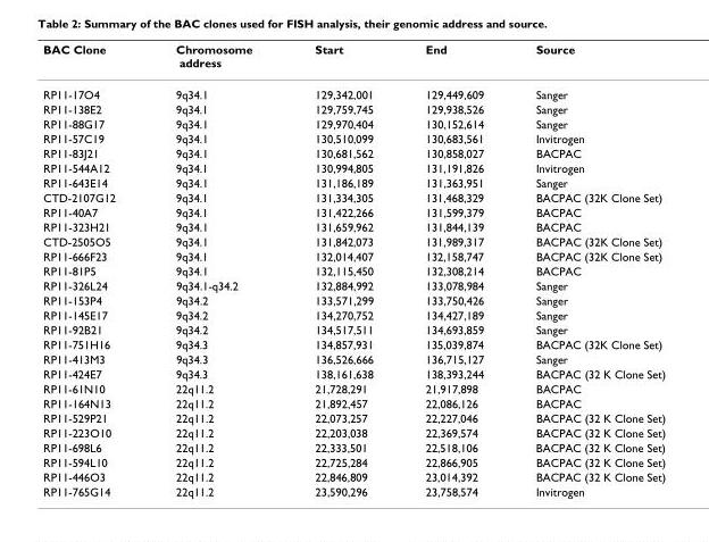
<table><thead><tr><td>BAC Clone</td><td>Chromosome address</td><td>Start</td><td>End</td><td>Source</td></tr></thead><tbody><tr><td>RP11-17O4</td><td>9q34.1</td><td>129,342,001</td><td>129,449,609</td><td>Sanger</td></tr><tr><td>RP11-138E2</td><td>9q34.1</td><td>129,759,745</td><td>129,938,526</td><td>Sanger</td></tr><tr><td>RP11-88G17</td><td>9q34.1</td><td>129,970,404</td><td>130,152,614</td><td>Sanger</td></tr><tr><td>RP11-57C19</td><td>9q34.1</td><td>130,510,099</td><td>130,683,561</td><td>Invitrogen</td></tr><tr><td>RP11-83J21</td><td>9q34.1</td><td>130,681,562</td><td>130,858,027</td><td>BACPAC</td></tr><tr><td>RP11-544A12</td><td>9q34.1</td><td>130,994,805</td><td>131,191,826</td><td>Invitrogen</td></tr><tr><td>RP11-643E14</td><td>9q34.1</td><td>131,186,189</td><td>131,363,951</td><td>Sanger</td></tr><tr><td>CTD-2107G12</td><td>9q34.1</td><td>131,334,305</td><td>131,468,329</td><td>BACPAC (32K Clone Set)</td></tr><tr><td>RP11-40A7</td><td>9q34.1</td><td>131,422,266</td><td>131,599,379</td><td>BACPAC</td></tr><tr><td>RP11-323H21</td><td>9q34.1</td><td>131,659,962</td><td>131,844,139</td><td>BACPAC</td></tr><tr><td>CTD-2505O5</td><td>9q34.1</td><td>131,842,073</td><td>131,989,317</td><td>BACPAC (32K Clone Set)</td></tr><tr><td>RP11-666F23</td><td>9q34.1</td><td>132,014,407</td><td>132,158,747</td><td>BACPAC (32K Clone Set)</td></tr><tr><td>RP11-81P5</td><td>9q34.1</td><td>132,115,450</td><td>132,308,214</td><td>BACPAC</td></tr><tr><td>RP11-326L24</td><td>9q34.1-q34.2</td><td>132,884,992</td><td>133,078,984</td><td>Sanger</td></tr><tr><td>RP11-153P4</td><td>9q34.2</td><td>133,571,299</td><td>133,750,426</td><td>Sanger</td></tr><tr><td>RP11-145E17</td><td>9q34.2</td><td>134,270,752</td><td>134,427,189</td><td>Sanger</td></tr><tr><td>RP11-92B21</td><td>9q34.2</td><td>134,517,511</td><td>134,693,859</td><td>Sanger</td></tr><tr><td>RP11-751H16</td><td>9q34.3</td><td>134,857,931</td><td>135,039,874</td><td>BACPAC (32K Clone Set)</td></tr><tr><td>RP11-413M3</td><td>9q34.3</td><td>136,526,666</td><td>136,715,127</td><td>Sanger</td></tr><tr><td>RP11-424E7</td><td>9q34.3</td><td>138,161,638</td><td>138,393,244</td><td>BACPAC (32 K Clone Set)</td></tr><tr><td>RP11-61N10</td><td>22q11.2</td><td>21,728,291</td><td>21,917,898</td><td>BACPAC</td></tr><tr><td>RP11-164N13</td><td>22q11.2</td><td>21,892,457</td><td>22,086,126</td><td>BACPAC</td></tr><tr><td>RP11-529P21</td><td>22q11.2</td><td>22,073,257</td><td>22,227,046</td><td>BACPAC (32 K Clone Set)</td></tr><tr><td>RP11-223O10</td><td>22q11.2</td><td>22,203,038</td><td>22,369,574</td><td>BACPAC (32 K Clone Set)</td></tr><tr><td>RP11-698L6</td><td>22q11.2</td><td>22,333,501</td><td>22,518,106</td><td>BACPAC (32 K Clone Set)</td></tr><tr><td>RP11-594L10</td><td>22q11.2</td><td>22,725,284</td><td>22,866,905</td><td>BACPAC (32 K Clone Set)</td></tr><tr><td>RP11-446O3</td><td>22q11.2</td><td>22,846,809</td><td>23,014,392</td><td>BACPAC (32 K Clone Set)</td></tr><tr><td>RP11-765G14</td><td>22q11.2</td><td>23,590,296</td><td>23,758,574</td><td>Invitrogen</td></tr></tbody></table>